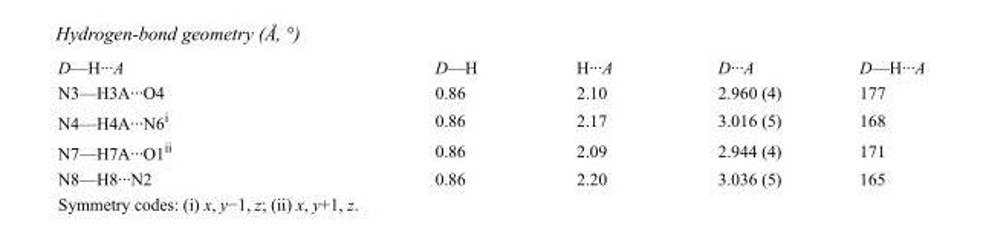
<table><tbody><tr><td>D—H···A</td><td>D—H</td><td>H···A</td><td>D···A</td><td>D—H···A</td></tr><tr><td>N3—H3A···O4</td><td>0.86</td><td>2.10</td><td>2.960 (4)</td><td>177</td></tr><tr><td>N4—H4A···N6<sup>i</sup></td><td>0.86</td><td>2.17</td><td>3.016 (5)</td><td>168</td></tr><tr><td>N7—H7A···O1<sup>ii</sup></td><td>0.86</td><td>2.09</td><td>2.944 (4)</td><td>171</td></tr><tr><td>N8—H8···N2</td><td>0.86</td><td>2.20</td><td>3.036 (5)</td><td>165</td></tr></tbody></table>